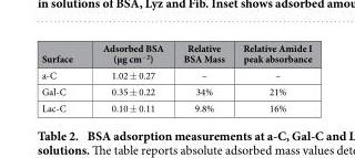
<table><thead><tr><td>Surface</td><td>Adsorbed BSA (μg cm<sup>−2</sup>)</td><td>Relative BSA Mass</td><td>Relative Amide I peak absorbance</td></tr></thead><tbody><tr><td>a-C</td><td>1.02 ± 0.27</td><td>–</td><td>–</td></tr><tr><td>Gal-C</td><td>0.35 ± 0.22</td><td>34%</td><td>21%</td></tr><tr><td>Lac-C</td><td>0.10 ± 0.11</td><td>9.8%</td><td>16%</td></tr></tbody></table>